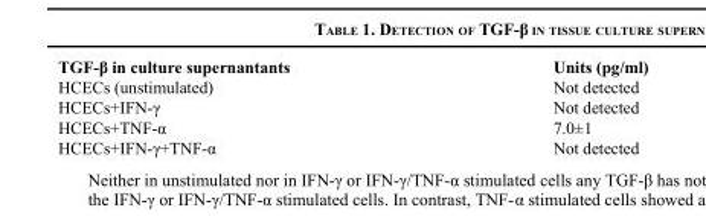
<table><thead><tr><td>TGF-β in culture supernantants</td><td>Units (pg/ml)</td></tr></thead><tbody><tr><td>HCECs (unstimulated)</td><td>Not detected</td></tr><tr><td>HCECs+IFN-γ</td><td>Not detected</td></tr><tr><td>HCECs+TNF-α</td><td>7.0±1</td></tr><tr><td>HCECs+IFN-γ+TNF-α</td><td>Not detected</td></tr></tbody></table>